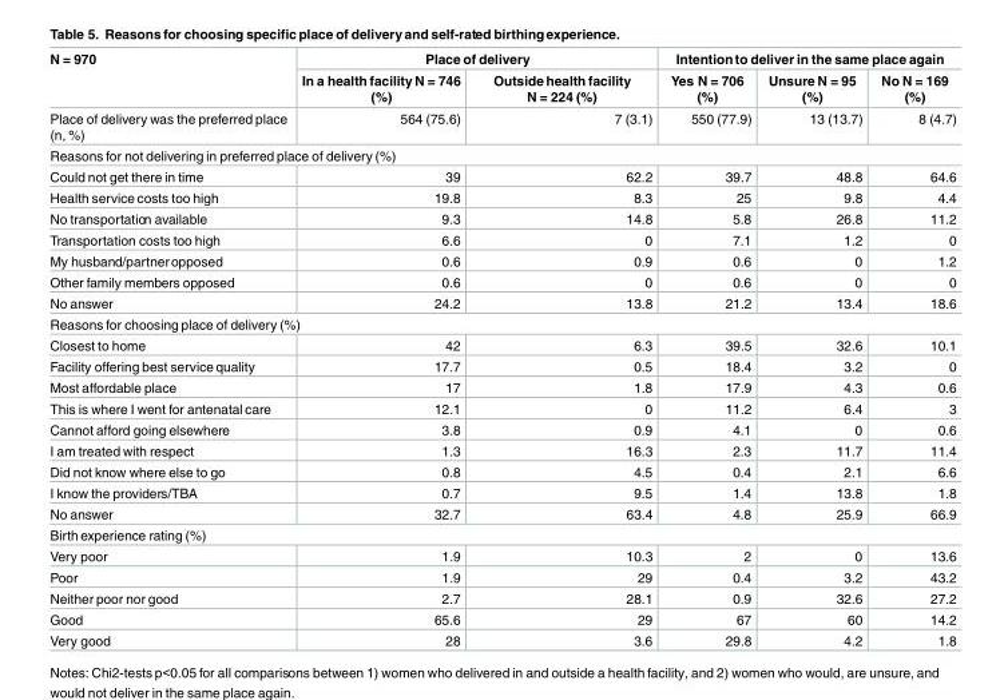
<table><thead><tr><td rowspan="2">N = 970</td><td colspan="2">Place of delivery</td><td colspan="3">Intention to deliver in the same place again</td></tr><tr><td>In a health facility N = 746 (%)</td><td>Outside health facility N = 224 (%)</td><td>Yes N = 706 (%)</td><td>Unsure N = 95 (%)</td><td>No N = 169 (%)</td></tr></thead><tbody><tr><td>Place of delivery was the preferred place (n, %)</td><td>564 (75.6)</td><td>7 (3.1)</td><td>550 (77.9)</td><td>13 (13.7)</td><td>8 (4.7)</td></tr><tr><td colspan="6">Reasons for not delivering in preferred place of delivery (%)</td></tr><tr><td>Could not get there in time</td><td>39</td><td>62.2</td><td>39.7</td><td>48.8</td><td>64.6</td></tr><tr><td>Health service costs too high</td><td>19.8</td><td>8.3</td><td>25</td><td>9.8</td><td>4.4</td></tr><tr><td>No transportation available</td><td>9.3</td><td>14.8</td><td>5.8</td><td>26.8</td><td>11.2</td></tr><tr><td>Transportation costs too high</td><td>6.6</td><td>0</td><td>7.1</td><td>1.2</td><td>0</td></tr><tr><td>My husband/partneropposed</td><td>0.6</td><td>0.9</td><td>0.6</td><td>0</td><td>1.2</td></tr><tr><td>Other family members opposed</td><td>0.6</td><td>0</td><td>0.6</td><td>0</td><td>0</td></tr><tr><td>No answer</td><td>24.2</td><td>13.8</td><td>21.2</td><td>13.4</td><td>18.6</td></tr><tr><td colspan="6">Reasons for choosing place of delivery (%)</td></tr><tr><td>Closest to home</td><td>42</td><td>6.3</td><td>39.5</td><td>32.6</td><td>10.1</td></tr><tr><td>Facility offering best service quality</td><td>17.7</td><td>0.5</td><td>18.4</td><td>3.2</td><td>0</td></tr><tr><td>Most affordable place</td><td>17</td><td>1.8</td><td>17.9</td><td>4.3</td><td>0.6</td></tr><tr><td>This is where I went for antenatal care</td><td>12.1</td><td>0</td><td>11.2</td><td>6.4</td><td>3</td></tr><tr><td>Cannot afford going elsewhere</td><td>3.8</td><td>0.9</td><td>4.1</td><td>0</td><td>0.6</td></tr><tr><td>I am treated with respect</td><td>1.3</td><td>16.3</td><td>2.3</td><td>11.7</td><td>11.4</td></tr><tr><td>Did not know where else to go</td><td>0.8</td><td>4.5</td><td>0.4</td><td>2.1</td><td>6.6</td></tr><tr><td>I know the providers/TBA</td><td>0.7</td><td>9.5</td><td>1.4</td><td>13.8</td><td>1.8</td></tr><tr><td>No answer</td><td>32.7</td><td>63.4</td><td>4.8</td><td>25.9</td><td>66.9</td></tr><tr><td colspan="6">Birth experience rating (%)</td></tr><tr><td>Very poor</td><td>1.9</td><td>10.3</td><td>2</td><td>0</td><td>13.6</td></tr><tr><td>Poor</td><td>1.9</td><td>29</td><td>0.4</td><td>3.2</td><td>43.2</td></tr><tr><td>Neither poor nor good</td><td>2.7</td><td>28.1</td><td>0.9</td><td>32.6</td><td>27.2</td></tr><tr><td>Good</td><td>65.6</td><td>29</td><td>67</td><td>60</td><td>14.2</td></tr><tr><td>Very good</td><td>28</td><td>3.6</td><td>29.8</td><td>4.2</td><td>1.8</td></tr></tbody></table>